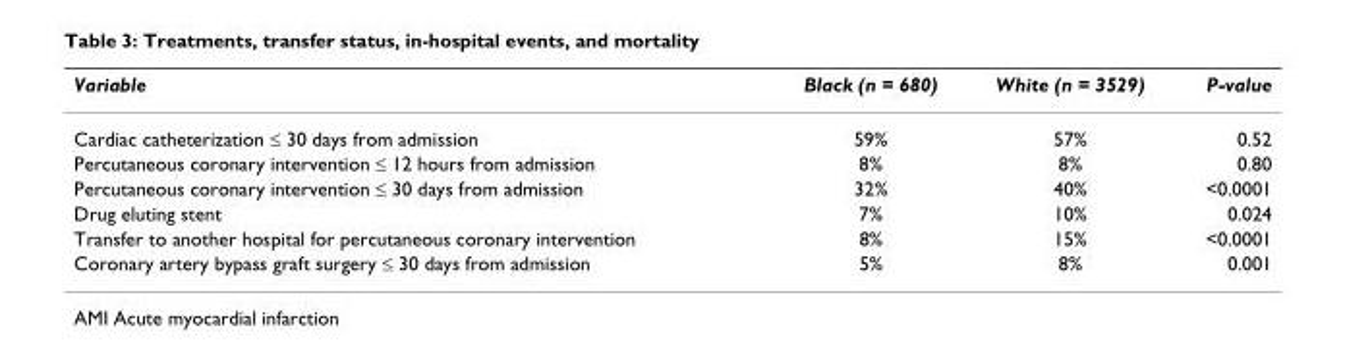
<table><thead><tr><td>Variable</td><td>Black (n = 680)</td><td>White (n = 3529)</td><td>P-value</td></tr></thead><tbody><tr><td>Cardiac catheterization ≤ 30 days from admission</td><td>59%</td><td>57%</td><td>0.52</td></tr><tr><td>Percutaneous coronary intervention ≤ 12 hours from admission</td><td>8%</td><td>8%</td><td>0.80</td></tr><tr><td>Percutaneous coronary intervention ≤ 30 days from admission</td><td>32%</td><td>40%</td><td>&lt;0.0001</td></tr><tr><td>Drug eluting stent</td><td>7%</td><td>10%</td><td>0.024</td></tr><tr><td>Transfer to another hospital for percutaneous coronary intervention</td><td>8%</td><td>15%</td><td>&lt;0.0001</td></tr><tr><td>Coronary artery bypass graft surgery ≤ 30 days from admission</td><td>5%</td><td>8%</td><td>0.001</td></tr></tbody></table>